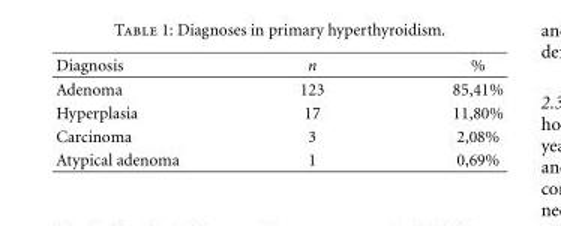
<table><thead><tr><td>Diagnosis</td><td>n</td><td>%</td></tr></thead><tbody><tr><td>Adenoma</td><td>123</td><td>85,41%</td></tr><tr><td>Hyperplasia</td><td>17</td><td>11,80%</td></tr><tr><td>Carcinoma</td><td>3</td><td>2,08%</td></tr><tr><td>Atypical adenoma</td><td>1</td><td>0,69%</td></tr></tbody></table>